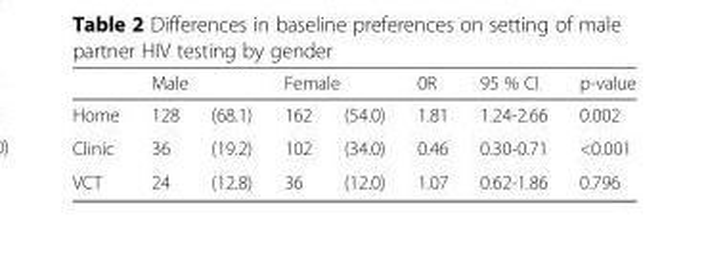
<table><thead><tr><td rowspan="2">Home</td><td colspan="2">Male</td><td colspan="2">Female</td><td rowspan="2">0R 1.81</td><td rowspan="2">95 % CI 1.24-2.66</td><td rowspan="2">p-value 0.002</td></tr><tr><td>128</td><td>(68.1)</td><td>162</td><td>(54.0)</td></tr></thead><tbody><tr><td>Clinic</td><td>36</td><td>(19.2)</td><td>102</td><td>(34.0)</td><td>0.46</td><td>0.30-0.71</td><td>&lt;0.001</td></tr><tr><td>VCT</td><td>24</td><td>(12.8)</td><td>36</td><td>(12.0)</td><td>1.07</td><td>0.62-1.86</td><td>0.796</td></tr></tbody></table>